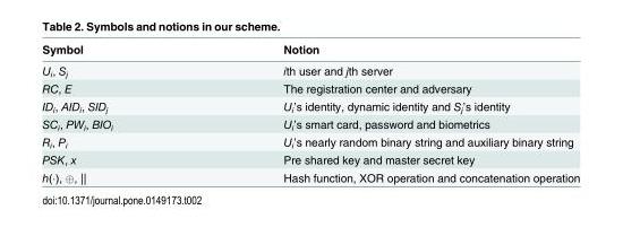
<table><thead><tr><td>Symbol</td><td>Notion</td></tr></thead><tbody><tr><td>U<sub>i</sub>, S<sub>j</sub></td><td>ith user and jth server</td></tr><tr><td>RC, E</td><td>The registration center and adversary</td></tr><tr><td>ID<sub>i</sub>, AID<sub>i</sub>, SID<sub>j</sub></td><td>U<sub>i</sub>’s identity, dynamic identity and S<sub>j</sub>’s identity</td></tr><tr><td>SC<sub>i</sub>, PW<sub>i</sub>, BIO<sub>i</sub></td><td>U<sub>i</sub>’s smart card, password and biometrics</td></tr><tr><td>R<sub>i</sub>, P<sub>i</sub></td><td>U<sub>i</sub>’s nearly random binary string and auxiliary binary string</td></tr><tr><td>PSK, x</td><td>Pre shared key and master secret key</td></tr><tr><td>h(⋅), ⊕, ||</td><td>Hash function, XOR operation and concatenation operation</td></tr></tbody></table>